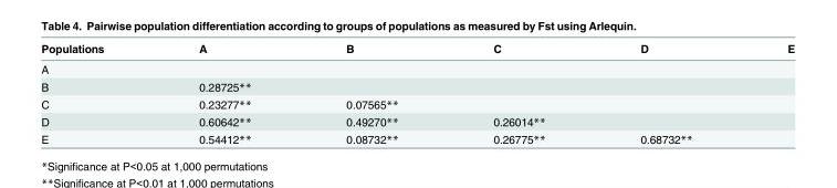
<table><thead><tr><td>Populations</td><td>A</td><td>B</td><td>C</td><td>D</td><td>E</td></tr></thead><tbody><tr><td colspan="6">A</td></tr><tr><td>B</td><td>0.28725**</td><td></td><td></td><td></td><td></td></tr><tr><td>C</td><td>0.23277**</td><td>0.07565**</td><td></td><td></td><td></td></tr><tr><td>D</td><td>0.60642**</td><td>0.49270**</td><td>0.26014**</td><td></td><td></td></tr><tr><td>E</td><td>0.54412**</td><td>0.08732**</td><td>0.26775**</td><td>0.68732**</td><td></td></tr></tbody></table>